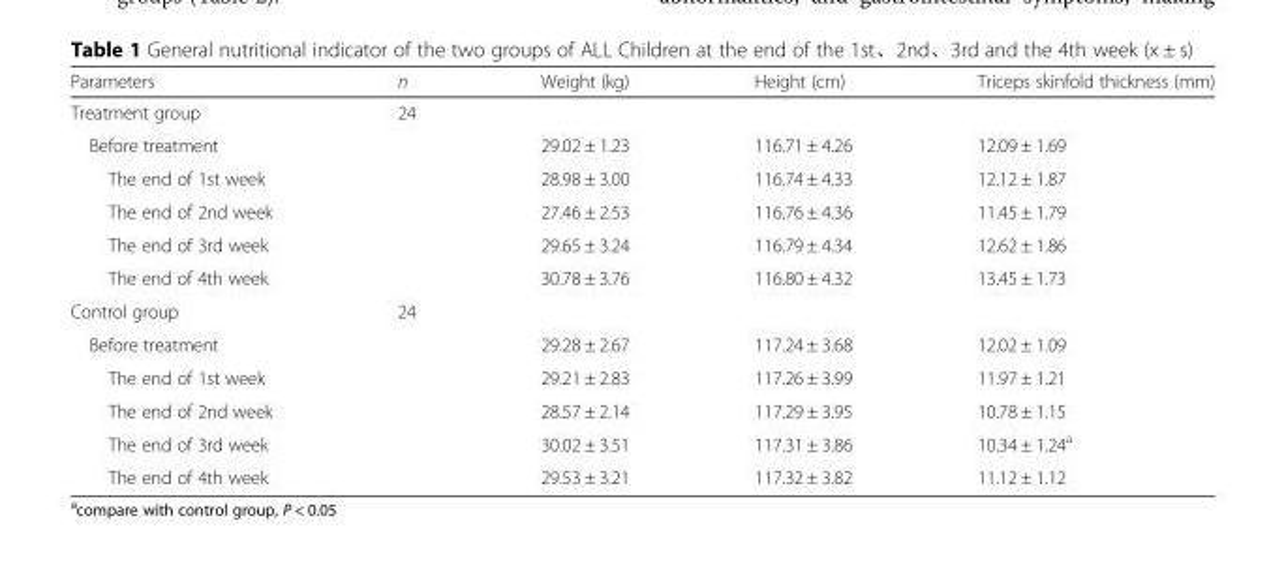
<table><thead><tr><td>Parameters</td><td>n</td><td>Weight (kg)</td><td>Height (cm)</td><td>Triceps skinfold thickness (mm)</td></tr></thead><tbody><tr><td>Treatment group</td><td>24</td><td></td><td></td><td></td></tr><tr><td>Before treatment</td><td></td><td>29.02 ± 1.23</td><td>116.71 ± 4.26</td><td>12.09 ± 1.69</td></tr><tr><td>The end of 1st week</td><td></td><td>28.98 ± 3.00</td><td>116.74 ± 4.33</td><td>12.12 ± 1.87</td></tr><tr><td>The end of 2nd week</td><td></td><td>27.46 ± 2.53</td><td>116.76 ± 4.36</td><td>11.45 ± 1.79</td></tr><tr><td>The end of 3rd week</td><td></td><td>29.65 ± 3.24</td><td>116.79 ± 4.34</td><td>12.62 ± 1.86</td></tr><tr><td>The end of 4th week</td><td></td><td>30.78 ± 3.76</td><td>116.80 ± 4.32</td><td>13.45 ± 1.73</td></tr><tr><td>Control group</td><td>24</td><td></td><td></td><td></td></tr><tr><td>Before treatment</td><td></td><td>29.28 ± 2.67</td><td>117.24 ± 3.68</td><td>12.02 ± 1.09</td></tr><tr><td>The end of 1st week</td><td></td><td>29.21 ± 2.83</td><td>117.26 ± 3.99</td><td>11.97 ± 1.21</td></tr><tr><td>The end of 2nd week</td><td></td><td>28.57 ± 2.14</td><td>117.29 ± 3.95</td><td>10.78 ± 1.15</td></tr><tr><td>The end of 3rd week</td><td></td><td>30.02 ± 3.51</td><td>117.31 ± 3.86</td><td>10.34 ± 1.24<sup>a</sup></td></tr><tr><td>The end of 4th week</td><td></td><td>29.53 ± 3.21</td><td>117.32 ± 3.82</td><td>11.12 ± 1.12</td></tr></tbody></table>